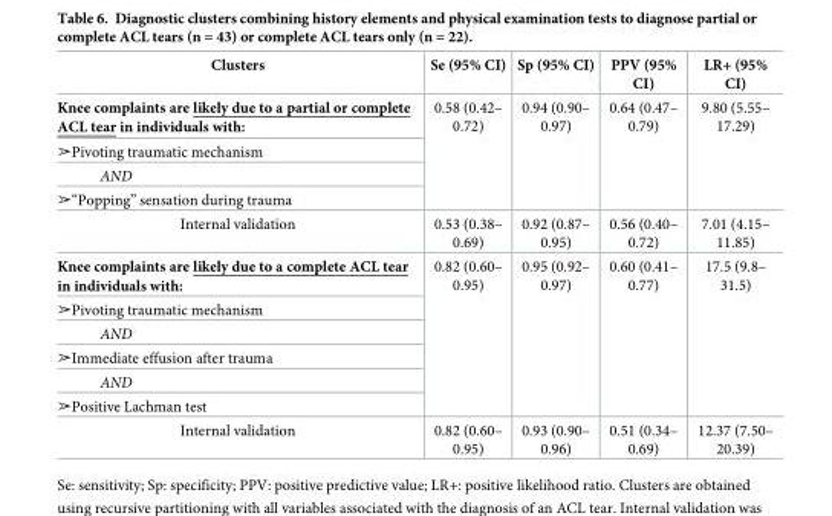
<table><thead><tr><td>Clusters</td><td>Se (95% CI)</td><td>Sp (95% CI)</td><td>PPV (95% CI)</td><td>LR+ (95% CI)</td></tr></thead><tbody><tr><td>Knee complaints are likely due to a partial or complete ACL tear in individuals with:</td><td rowspan="4">0.58 (0.42– 0.72)</td><td rowspan="4">0.94 (0.90– 0.97)</td><td rowspan="4">0.64 (0.47– 0.79)</td><td rowspan="4">9.80 (5.55– 17.29)</td></tr><tr><td>➢Pivoting traumatic mechanism</td></tr><tr><td>AND</td></tr><tr><td>➢“Popping” sensation during trauma</td></tr><tr><td>Internal validation</td><td>0.53 (0.38– 0.69)</td><td>0.92 (0.87– 0.95)</td><td>0.56 (0.40– 0.72)</td><td>7.01 (4.15– 11.85)</td></tr><tr><td>Knee complaints are likely due to a complete ACL tear in individuals with:</td><td rowspan="6">0.82 (0.60– 0.95)</td><td rowspan="6">0.95 (0.92– 0.97)</td><td rowspan="6">0.60 (0.41– 0.77)</td><td rowspan="6">17.5 (9.8– 31.5)</td></tr><tr><td>➢Pivoting traumatic mechanism</td></tr><tr><td>AND</td></tr><tr><td>➢Immediate effusion after trauma</td></tr><tr><td>AND</td></tr><tr><td>➢Positive Lachman test</td></tr><tr><td>Internal validation</td><td>0.82 (0.60– 0.95)</td><td>0.93 (0.90– 0.96)</td><td>0.51 (0.34– 0.69)</td><td>12.37 (7.50– 20.39)</td></tr></tbody></table>